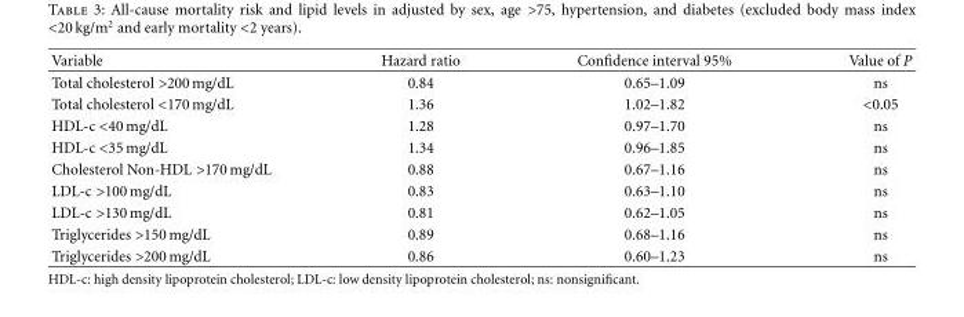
<table><thead><tr><td>Variable</td><td>Hazard ratio</td><td>Confidence interval 95%</td><td>Value of P</td></tr></thead><tbody><tr><td>Total cholesterol &gt;200 mg/dL</td><td>0.84</td><td>0.65–1.09</td><td>ns</td></tr><tr><td>Total cholesterol &lt;170 mg/dL</td><td>1.36</td><td>1.02–1.82</td><td>&lt;0.05</td></tr><tr><td>HDL-c &lt;40 mg/dL</td><td>1.28</td><td>0.97–1.70</td><td>ns</td></tr><tr><td>HDL-c &lt;35 mg/dL</td><td>1.34</td><td>0.96–1.85</td><td>ns</td></tr><tr><td>Cholesterol Non-HDL &gt;170 mg/dL</td><td>0.88</td><td>0.67–1.16</td><td>ns</td></tr><tr><td>LDL-c &gt;100 mg/dL</td><td>0.83</td><td>0.63–1.10</td><td>ns</td></tr><tr><td>LDL-c &gt;130 mg/dL</td><td>0.81</td><td>0.62–1.05</td><td>ns</td></tr><tr><td>Triglycerides &gt;150 mg/dL</td><td>0.89</td><td>0.68–1.16</td><td>ns</td></tr><tr><td>Triglycerides &gt;200 mg/dL</td><td>0.86</td><td>0.60–1.23</td><td>ns</td></tr></tbody></table>